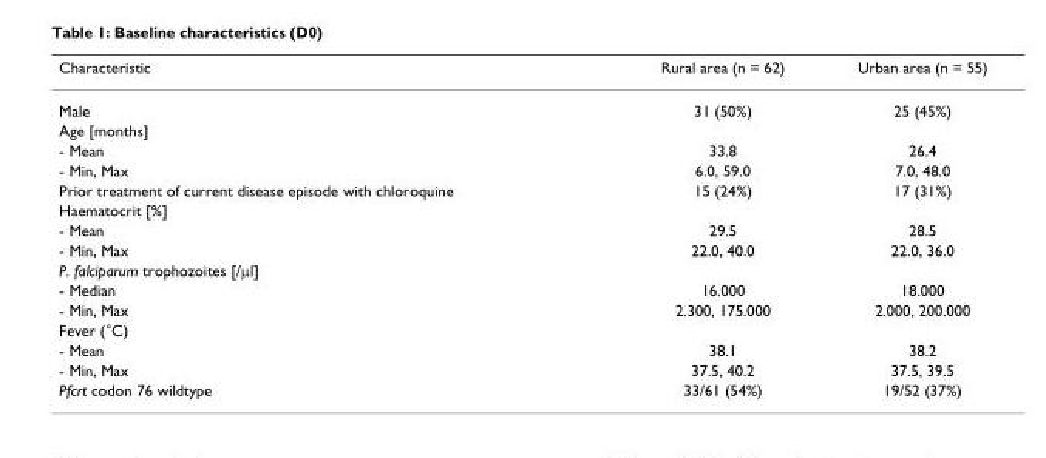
<table><thead><tr><td>Characteristic</td><td>Rural area (n = 62)</td><td>Urban area (n = 55)</td></tr></thead><tbody><tr><td>Male</td><td>31 (50%)</td><td>25 (45%)</td></tr><tr><td colspan="3">Age [months]</td></tr><tr><td>- Mean</td><td>33.8</td><td>26.4</td></tr><tr><td>- Min, Max</td><td>6.0, 59.0</td><td>7.0, 48.0</td></tr><tr><td>Prior treatment of current disease episode with chloroquine</td><td>15 (24%)</td><td>17 (31%)</td></tr><tr><td colspan="3">Haematocrit [%]</td></tr><tr><td>- Mean</td><td>29.5</td><td>28.5</td></tr><tr><td>- Min, Max</td><td>22.0, 40.0</td><td>22.0, 36.0</td></tr><tr><td colspan="3">P. falciparum trophozoites [/μl]</td></tr><tr><td>- Median</td><td>16.000</td><td>18.000</td></tr><tr><td>- Min, Max</td><td>2.300, 175.000</td><td>2.000, 200.000</td></tr><tr><td colspan="3">Fever (°C)</td></tr><tr><td>- Mean</td><td>38.1</td><td>38.2</td></tr><tr><td>- Min, Max</td><td>37.5, 40.2</td><td>37.5, 39.5</td></tr><tr><td>Pfcrt codon 76 wildtype</td><td>33/61 (54%)</td><td>19/52 (37%)</td></tr></tbody></table>